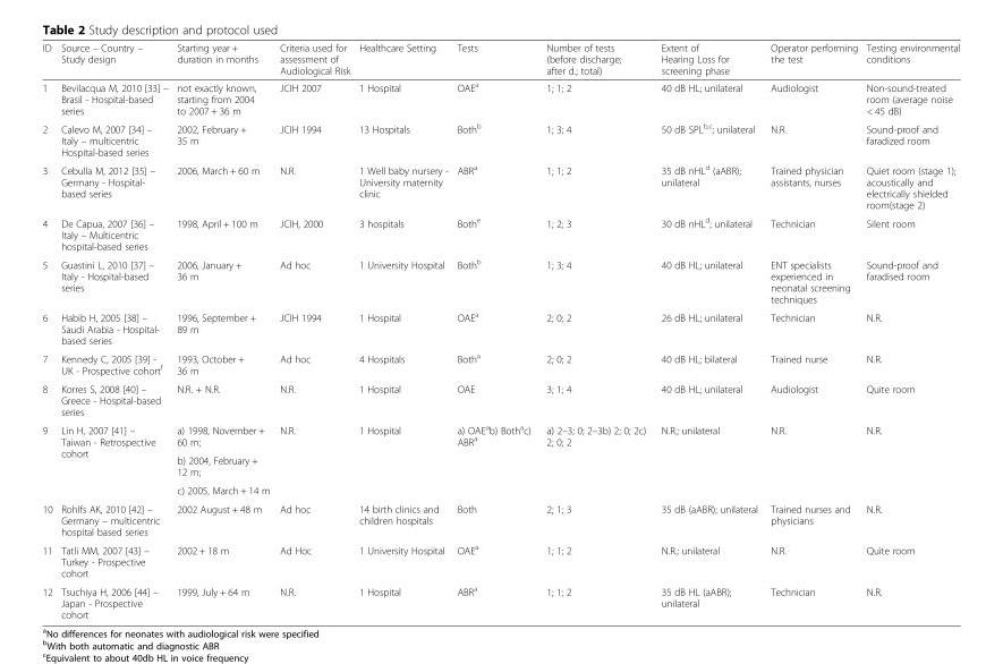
<table><thead><tr><td>ID</td><td>Source – Country – Study design</td><td>Starting year + duration in months</td><td>Criteria used for assessment of Audiological Risk</td><td>Healthcare Setting</td><td>Tests</td><td>Number of tests (before discharge; after d.; total)</td><td>Extent of Hearing Loss for screening phase</td><td>Operator performing the test</td><td>Testing environmental conditions</td></tr></thead><tbody><tr><td>1</td><td>Bevilacqua M, 2010 [33] – Brasil - Hospital-based series</td><td>not exactly known, starting from 2004 to 2007 + 36 m</td><td>JCIH 2007</td><td>1 Hospital</td><td>OAE<sup>a</sup></td><td>1; 1; 2</td><td>40 dB HL; unilateral</td><td>Audiologist</td><td>Non-sound-treated room (average noise &lt; 45 dB)</td></tr><tr><td>2</td><td>Calevo M, 2007 [34] – Italy – multicentric Hospital-based series</td><td>2002, February + 35 m</td><td>JCIH 1994</td><td>13 Hospitals</td><td>Both<sup>b</sup></td><td>1; 3; 4</td><td>50 dB SPL<sup>b,c</sup>; unilateral</td><td>N.R.</td><td>Sound-proof and faradized room</td></tr><tr><td>3</td><td>Cebulla M, 2012 [35] – Germany - Hospital- based series</td><td>2006, March + 60 m</td><td>N.R.</td><td>1 Well baby nursery - University maternity clinic</td><td>ABR<sup>a</sup></td><td>1; 1; 2</td><td>35 dB nHL<sup>d</sup> (aABR); unilateral</td><td>Trained physician assistants, nurses</td><td>Quiet room (stage 1); acoustically and electrically shielded room(stage 2)</td></tr><tr><td>4</td><td>De Capua, 2007 [36] – Italy – Multicentric hospital-based series</td><td>1998, April + 100 m</td><td>JCIH, 2000</td><td>3 hospitals</td><td>Both<sup>e</sup></td><td>1; 2; 3</td><td>30 dB nHL<sup>d</sup>; unilateral</td><td>Technician</td><td>Silent room</td></tr><tr><td>5</td><td>Guastini L, 2010 [37] – Italy - Hospital-based series</td><td>2006, January + 36 m</td><td>Ad hoc</td><td>1 University Hospital</td><td>Both<sup>b</sup></td><td>1; 3; 4</td><td>40 dB HL; unilateral</td><td>ENT specialists experienced in neonatal screening techniques</td><td>Sound-proof and faradised room</td></tr><tr><td>6</td><td>Habib H, 2005 [38] – Saudi Arabia - Hospital- based series</td><td>1996, September + 89 m</td><td>JCIH 1994</td><td>1 Hospital</td><td>OAE<sup>a</sup></td><td>2; 0; 2</td><td>26 dB HL; unilateral</td><td>Technician</td><td>N.R.</td></tr><tr><td>7</td><td>Kennedy C, 2005 [39] - UK - Prospective cohort<sup>f</sup></td><td>1993, October + 36 m</td><td>Ad hoc</td><td>4 Hospitals</td><td>Both<sup>a</sup></td><td>2; 0; 2</td><td>40 dB HL; bilateral</td><td>Trained nurse</td><td>N.R.</td></tr><tr><td>8</td><td>Korres S, 2008 [40] – Greece - Hospital-based series</td><td>N.R. + N.R.</td><td>N.R.</td><td>1 Hospital</td><td>OAE</td><td>3; 1; 4</td><td>40 dB HL; unilateral</td><td>Audiologist</td><td>Quite room</td></tr><tr><td rowspan="3">9</td><td rowspan="3">Lin H, 2007 [41] – Taiwan - Retrospective cohort</td><td>a) 1998, November + 60 m;</td><td rowspan="3">N.R.</td><td rowspan="3">1 Hospital</td><td rowspan="3">a) OAE<sup>a</sup>b) Both<sup>a</sup>c) ABR<sup>a</sup></td><td rowspan="3">a) 2–3; 0; 2–3b) 2; 0; 2c) 2; 0; 2</td><td rowspan="3">N.R.; unilateral</td><td rowspan="3">N.R.</td><td rowspan="3">N.R.</td></tr><tr><td>b) 2004, February + 12 m;</td></tr><tr><td>c) 2005, March + 14 m</td></tr><tr><td>10</td><td>Rohlfs AK, 2010 [42] – Germany – multicentric hospital based series</td><td>2002 August + 48 m</td><td>Ad hoc</td><td>14 birth clinics and children hospitals</td><td>Both</td><td>2; 1; 3</td><td>35 dB (aABR); unilateral</td><td>Trained nurses and physicians</td><td>N.R.</td></tr><tr><td>11</td><td>Tatli MM, 2007 [43] – Turkey - Prospective cohort</td><td>2002 + 18 m</td><td>Ad Hoc</td><td>1 University Hospital</td><td>OAE<sup>a</sup></td><td>1; 1; 2</td><td>N.R.; unilateral</td><td>N.R.</td><td>Quite room</td></tr><tr><td>12</td><td>Tsuchiya H, 2006 [44] – Japan - Prospective cohort</td><td>1999, July + 64 m</td><td>N.R.</td><td>1 Hospital</td><td>ABR<sup>a</sup></td><td>1; 1; 2</td><td>35 dB HL (aABR); unilateral</td><td>Technician</td><td>N.R.</td></tr></tbody></table>